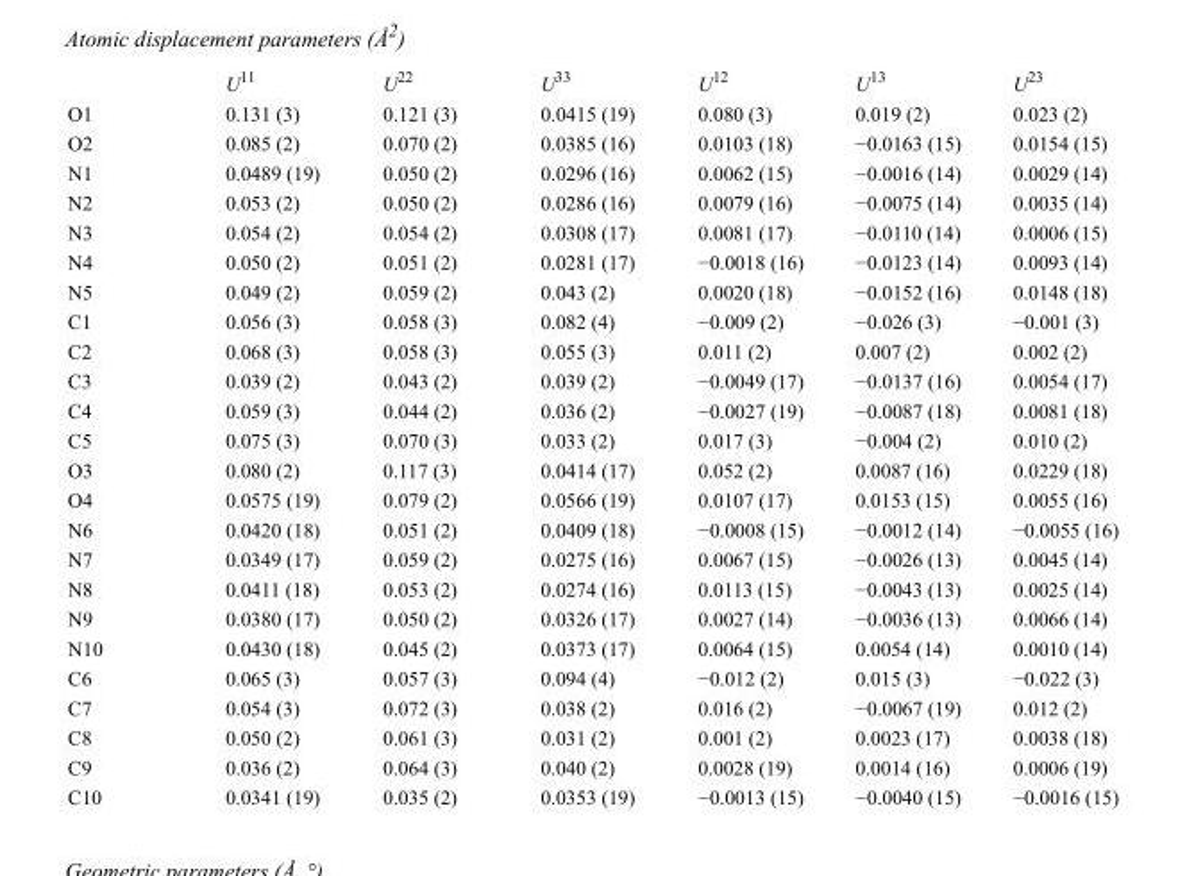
<table><thead><tr><td></td><td>U<sup>11</sup></td><td>U<sup>22</sup></td><td>U<sup>33</sup></td><td>U<sup>12</sup></td><td>U<sup>13</sup></td><td>U<sup>23</sup></td></tr></thead><tbody><tr><td>O1</td><td>0.131 (3)</td><td>0.121 (3)</td><td>0.0415 (19)</td><td>0.080 (3)</td><td>0.019 (2)</td><td>0.023 (2)</td></tr><tr><td>O2</td><td>0.085 (2)</td><td>0.070 (2)</td><td>0.0385 (16)</td><td>0.0103 (18)</td><td>−0.0163 (15)</td><td>0.0154 (15)</td></tr><tr><td>N1</td><td>0.0489 (19)</td><td>0.050 (2)</td><td>0.0296 (16)</td><td>0.0062 (15)</td><td>−0.0016 (14)</td><td>0.0029 (14)</td></tr><tr><td>N2</td><td>0.053 (2)</td><td>0.050 (2)</td><td>0.0286 (16)</td><td>0.0079 (16)</td><td>−0.0075 (14)</td><td>0.0035 (14)</td></tr><tr><td>N3</td><td>0.054 (2)</td><td>0.054 (2)</td><td>0.0308 (17)</td><td>0.0081 (17)</td><td>−0.0110 (14)</td><td>0.0006 (15)</td></tr><tr><td>N4</td><td>0.050 (2)</td><td>0.051 (2)</td><td>0.0281 (17)</td><td>−0.0018 (16)</td><td>−0.0123 (14)</td><td>0.0093 (14)</td></tr><tr><td>N5</td><td>0.049 (2)</td><td>0.059 (2)</td><td>0.043 (2)</td><td>0.0020 (18)</td><td>−0.0152 (16)</td><td>0.0148 (18)</td></tr><tr><td>C1</td><td>0.056 (3)</td><td>0.058 (3)</td><td>0.082 (4)</td><td>−0.009 (2)</td><td>−0.026 (3)</td><td>−0.001 (3)</td></tr><tr><td>C2</td><td>0.068 (3)</td><td>0.058 (3)</td><td>0.055 (3)</td><td>0.011 (2)</td><td>0.007 (2)</td><td>0.002 (2)</td></tr><tr><td>C3</td><td>0.039 (2)</td><td>0.043 (2)</td><td>0.039 (2)</td><td>−0.0049 (17)</td><td>−0.0137 (16)</td><td>0.0054 (17)</td></tr><tr><td>C4</td><td>0.059 (3)</td><td>0.044 (2)</td><td>0.036 (2)</td><td>−0.0027 (19)</td><td>−0.0087 (18)</td><td>0.0081 (18)</td></tr><tr><td>C5</td><td>0.075 (3)</td><td>0.070 (3)</td><td>0.033 (2)</td><td>0.017 (3)</td><td>−0.004 (2)</td><td>0.010 (2)</td></tr><tr><td>O3</td><td>0.080 (2)</td><td>0.117 (3)</td><td>0.0414 (17)</td><td>0.052 (2)</td><td>0.0087 (16)</td><td>0.0229 (18)</td></tr><tr><td>O4</td><td>0.0575 (19)</td><td>0.079 (2)</td><td>0.0566 (19)</td><td>0.0107 (17)</td><td>0.0153 (15)</td><td>0.0055 (16)</td></tr><tr><td>N6</td><td>0.0420 (18)</td><td>0.051 (2)</td><td>0.0409 (18)</td><td>−0.0008 (15)</td><td>−0.0012 (14)</td><td>−0.0055 (16)</td></tr><tr><td>N7</td><td>0.0349 (17)</td><td>0.059 (2)</td><td>0.0275 (16)</td><td>0.0067 (15)</td><td>−0.0026 (13)</td><td>0.0045 (14)</td></tr><tr><td>N8</td><td>0.0411 (18)</td><td>0.053 (2)</td><td>0.0274 (16)</td><td>0.0113 (15)</td><td>−0.0043 (13)</td><td>0.0025 (14)</td></tr><tr><td>N9</td><td>0.0380 (17)</td><td>0.050 (2)</td><td>0.0326 (17)</td><td>0.0027 (14)</td><td>−0.0036 (13)</td><td>0.0066 (14)</td></tr><tr><td>N10</td><td>0.0430 (18)</td><td>0.045 (2)</td><td>0.0373 (17)</td><td>0.0064 (15)</td><td>0.0054 (14)</td><td>0.0010 (14)</td></tr><tr><td>C6</td><td>0.065 (3)</td><td>0.057 (3)</td><td>0.094 (4)</td><td>−0.012 (2)</td><td>0.015 (3)</td><td>−0.022 (3)</td></tr><tr><td>C7</td><td>0.054 (3)</td><td>0.072 (3)</td><td>0.038 (2)</td><td>0.016 (2)</td><td>−0.0067 (19)</td><td>0.012 (2)</td></tr><tr><td>C8</td><td>0.050 (2)</td><td>0.061 (3)</td><td>0.031 (2)</td><td>0.001 (2)</td><td>0.0023 (17)</td><td>0.0038 (18)</td></tr><tr><td>C9</td><td>0.036 (2)</td><td>0.064 (3)</td><td>0.040 (2)</td><td>0.0028 (19)</td><td>0.0014 (16)</td><td>0.0006 (19)</td></tr><tr><td>C10</td><td>0.0341 (19)</td><td>0.035 (2)</td><td>0.0353 (19)</td><td>−0.0013 (15)</td><td>−0.0040 (15)</td><td>−0.0016 (15)</td></tr></tbody></table>